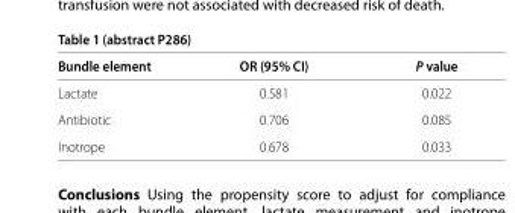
<table><thead><tr><td>Bundle element</td><td>OR (95% CI)</td><td>P value</td></tr></thead><tbody><tr><td>Lactate</td><td>0.581</td><td>0.022</td></tr><tr><td>Antibiotic</td><td>0.706</td><td>0.085</td></tr><tr><td>Inotrope</td><td>0.678</td><td>0.033</td></tr></tbody></table>